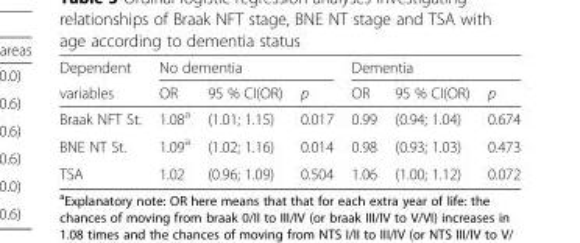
<table><thead><tr><td rowspan="2">Dependent variables</td><td colspan="3">No dementia</td><td colspan="3">Dementia</td></tr><tr><td>OR</td><td>95 % CI(OR)</td><td>p</td><td>OR</td><td>95 % CI(OR)</td><td>p</td></tr></thead><tbody><tr><td>Braak NFT St.</td><td>1.08<sup>a</sup></td><td>(1.01; 1.15)</td><td>0.017</td><td>0.99</td><td>(0.94; 1.04)</td><td>0.674</td></tr><tr><td>BNE NT St.</td><td>1.09<sup>a</sup></td><td>(1.02; 1.16)</td><td>0.014</td><td>0.98</td><td>(0.93; 1.03)</td><td>0.473</td></tr><tr><td>TSA</td><td>1.02</td><td>(0.96; 1.09)</td><td>0.504</td><td>1.06</td><td>(1.00; 1.12)</td><td>0.072</td></tr></tbody></table>